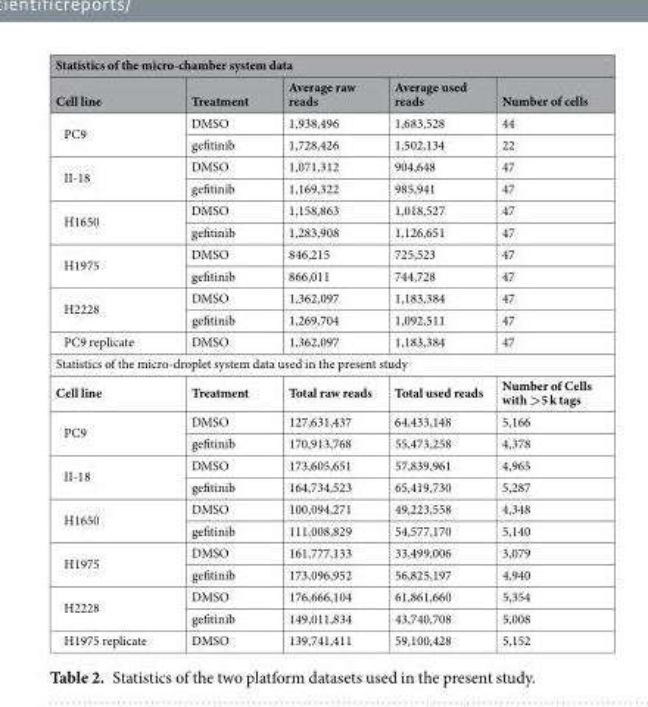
<table><thead><tr><td colspan="5">Statistics of the micro-chamber system data</td></tr><tr><td>Cell line</td><td>Treatment</td><td>Average raw reads</td><td>Average used reads</td><td>Number of cells</td></tr></thead><tbody><tr><td rowspan="2">PC9</td><td>DMSO</td><td>1,938,496</td><td>1,683,528</td><td>44</td></tr><tr><td>gefitinib</td><td>1,728,426</td><td>1,502,134</td><td>22</td></tr><tr><td rowspan="2">II-18</td><td>DMSO</td><td>1,071,312</td><td>904,648</td><td>47</td></tr><tr><td>gefitinib</td><td>1,169,322</td><td>985,941</td><td>47</td></tr><tr><td rowspan="2">H1650</td><td>DMSO</td><td>1,158,863</td><td>1,018,527</td><td>47</td></tr><tr><td>gefitinib</td><td>1,283,908</td><td>1,126,651</td><td>47</td></tr><tr><td rowspan="2">H1975</td><td>DMSO</td><td>846,215</td><td>725,523</td><td>47</td></tr><tr><td>gefitinib</td><td>866,011</td><td>744,728</td><td>47</td></tr><tr><td rowspan="2">H2228</td><td>DMSO</td><td>1,362,097</td><td>1,183,384</td><td>47</td></tr><tr><td>gefitinib</td><td>1,269,704</td><td>1,092,511</td><td>47</td></tr><tr><td>PC9 replicate</td><td>DMSO</td><td>1,362,097</td><td>1,183,384</td><td>47</td></tr><tr><td colspan="5">Statistics of the micro-droplet system data used in the present study</td></tr><tr><td>Cell line</td><td>Treatment</td><td>Total raw reads</td><td>Total used reads</td><td>Number of Cells with &gt;5 k tags</td></tr><tr><td rowspan="2">PC9</td><td>DMSO</td><td>127,631,437</td><td>64,433,148</td><td>5,166</td></tr><tr><td>gefitinib</td><td>170,913,768</td><td>55,473,258</td><td>4,378</td></tr><tr><td rowspan="2">II-18</td><td>DMSO</td><td>173,605,651</td><td>57,839,961</td><td>4,965</td></tr><tr><td>gefitinib</td><td>164,734,523</td><td>65,419,730</td><td>5,287</td></tr><tr><td rowspan="2">H1650</td><td>DMSO</td><td>100,094,271</td><td>49,223,558</td><td>4,348</td></tr><tr><td>gefitinib</td><td>111,008,829</td><td>54,577,170</td><td>5,140</td></tr><tr><td rowspan="2">H1975</td><td>DMSO</td><td>161,777,133</td><td>33,499,006</td><td>3,079</td></tr><tr><td>gefitinib</td><td>173,096,952</td><td>56,825,197</td><td>4,940</td></tr><tr><td rowspan="2">H2228</td><td>DMSO</td><td>176,666,104</td><td>61,861,660</td><td>5,354</td></tr><tr><td>gefitinib</td><td>149,011,834</td><td>43,740,708</td><td>5,008</td></tr><tr><td>H1975 replicate</td><td>DMSO</td><td>139,741,411</td><td>59,100,428</td><td>5,152</td></tr></tbody></table>